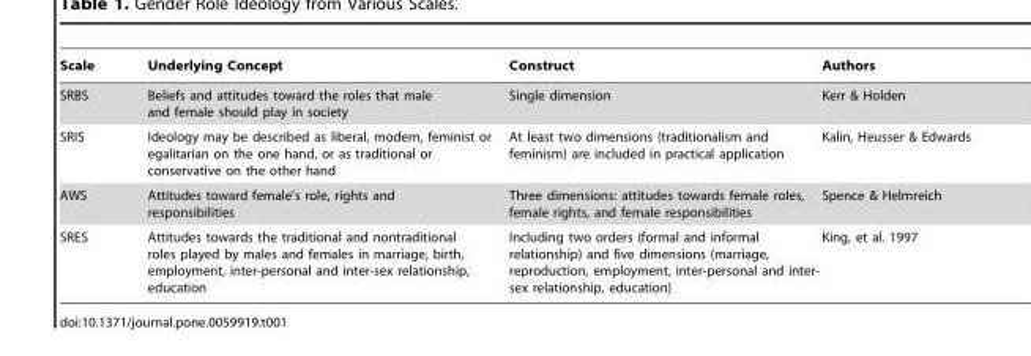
<table><thead><tr><td>Scale</td><td>Underlying Concept</td><td>Construct</td><td>Authors</td></tr></thead><tbody><tr><td>SRBS</td><td>Beliefs and attitudes toward the roles that male and female should play in society</td><td>Single dimension</td><td>Kerr &amp; Holden</td></tr><tr><td>SRIS</td><td>Ideology may be described as liberal, modern, feminist or egalitarian on the one hand, or as traditional or conservative on the other hand</td><td>At least two dimensions (traditionalism and feminism) are included in practical application</td><td>Kalin, Heusser &amp; Edwards</td></tr><tr><td>AWS</td><td>Attitudes toward female’s role, rights and responsibilities</td><td>Three dimensions: attitudes towards female roles, female rights, and female responsibilities</td><td>Spence &amp; Helmreich</td></tr><tr><td>SRES</td><td>Attitudes towards the traditional and nontraditional roles played by males and females in marriage, birth, employment, inter-personal and inter-sex relationship, education</td><td>Including two orders (formal and informal relationship) and five dimensions (marriage, reproduction, employment, inter-personal and inter- sex relationship, education)</td><td>King, et al. 1997</td></tr></tbody></table>